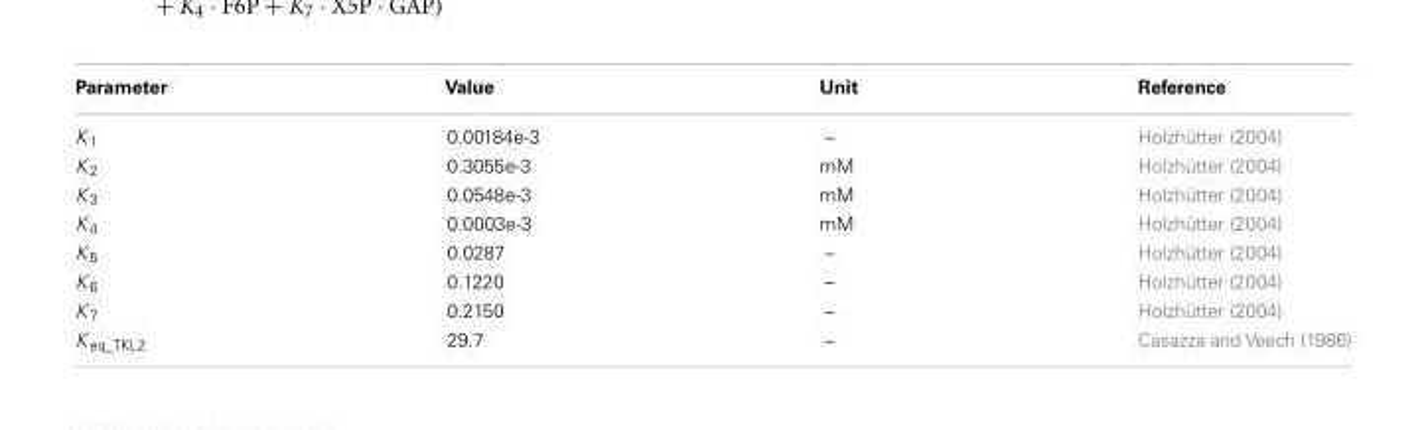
<table><thead><tr><td>Parameter</td><td>Value</td><td>Unit</td><td>Reference</td></tr></thead><tbody><tr><td>K <sub>1</sub></td><td>0.00184e-3</td><td>–</td><td>Holzhütter (2004)</td></tr><tr><td>K <sub>2</sub></td><td>0.3055e-3</td><td>mM</td><td>Holzhütter (2004)</td></tr><tr><td>K <sub>3</sub></td><td>0.0548e-3</td><td>mM</td><td>Holzhütter (2004)</td></tr><tr><td>K <sub>4</sub></td><td>0.0003e-3</td><td>mM</td><td>Holzhütter (2004)</td></tr><tr><td>K <sub>5</sub></td><td>0.0287</td><td>–</td><td>Holzhütter (2004)</td></tr><tr><td>K <sub>6</sub></td><td>0.1220</td><td>–</td><td>Holzhütter (2004)</td></tr><tr><td>K <sub>7</sub></td><td>0.2150</td><td>–</td><td>Holzhütter (2004)</td></tr><tr><td>K <sub>eq_TKL2</sub></td><td>29.7</td><td>–</td><td>Casazza and Veech (1986)</td></tr></tbody></table>